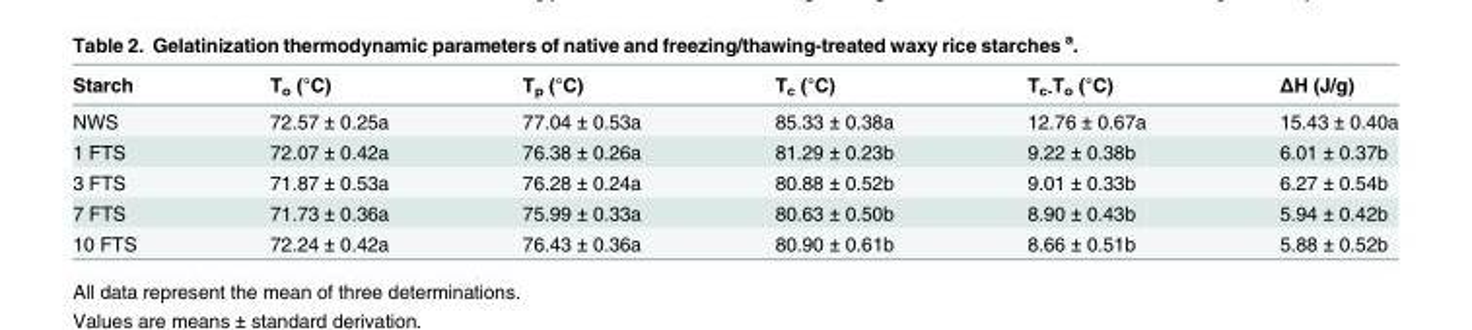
<table><thead><tr><td>Starch</td><td>T<sub>o</sub> (°C)</td><td>T<sub>p</sub> (°C)</td><td>T<sub>c</sub> (°C)</td><td>T<sub>c-</sub>T<sub>o</sub> (°C)</td><td>ΔH (J/g)</td></tr></thead><tbody><tr><td>NWS</td><td>72.57 ± 0.25a</td><td>77.04 ± 0.53a</td><td>85.33 ± 0.38a</td><td>12.76 ± 0.67a</td><td>15.43 ± 0.40a</td></tr><tr><td>1 FTS</td><td>72.07 ± 0.42a</td><td>76.38 ± 0.26a</td><td>81.29 ± 0.23b</td><td>9.22 ± 0.38b</td><td>6.01 ± 0.37b</td></tr><tr><td>3 FTS</td><td>71.87 ± 0.53a</td><td>76.28 ± 0.24a</td><td>80.88 ± 0.52b</td><td>9.01 ± 0.33b</td><td>6.27 ± 0.54b</td></tr><tr><td>7 FTS</td><td>71.73 ± 0.36a</td><td>75.99 ± 0.33a</td><td>80.63 ± 0.50b</td><td>8.90 ± 0.43b</td><td>5.94 ± 0.42b</td></tr><tr><td>10 FTS</td><td>72.24 ± 0.42a</td><td>76.43 ± 0.36a</td><td>80.90 ± 0.61b</td><td>8.66 ± 0.51b</td><td>5.88 ± 0.52b</td></tr></tbody></table>